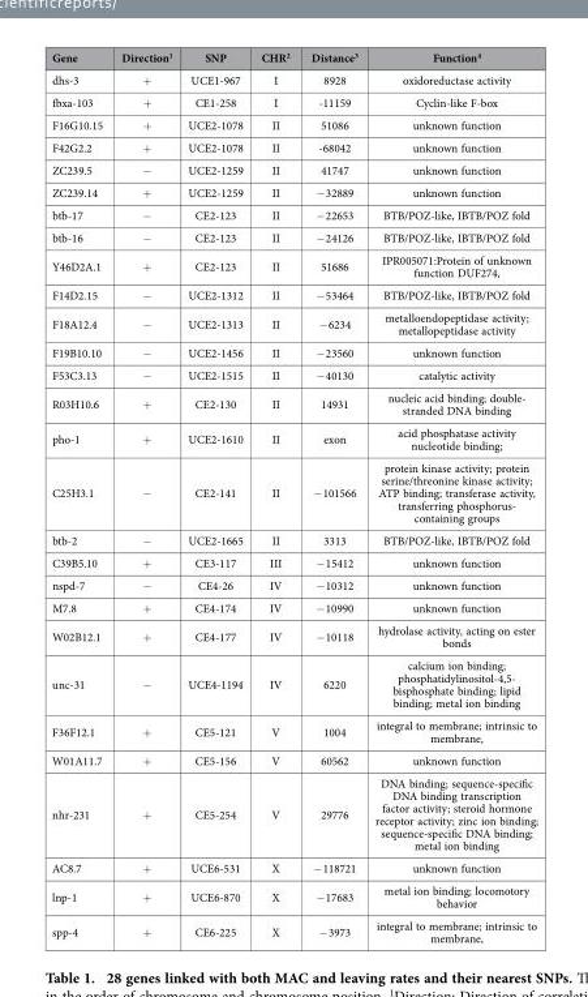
<table><thead><tr><td>Gene</td><td>Direction<sup>1</sup></td><td>SNP</td><td>CHR<sup>2</sup></td><td>Distance<sup>3</sup></td><td>Function<sup>4</sup></td></tr></thead><tbody><tr><td>dhs-3</td><td>+</td><td>UCE1-967</td><td>I</td><td>8928</td><td>oxidoreductase activity</td></tr><tr><td>fbxa-103</td><td>+</td><td>CE1-258</td><td>I</td><td>-11159</td><td>Cyclin-like F-box</td></tr><tr><td>F16G10.15</td><td>+</td><td>UCE2-1078</td><td>II</td><td>51086</td><td>unknown function</td></tr><tr><td>F42G2.2</td><td>+</td><td>UCE2-1078</td><td>II</td><td>-68042</td><td>unknown function</td></tr><tr><td>ZC239.5</td><td>−</td><td>UCE2-1259</td><td>II</td><td>41747</td><td>unknown function</td></tr><tr><td>ZC239.14</td><td>+</td><td>UCE2-1259</td><td>II</td><td>− 32889</td><td>unknown function</td></tr><tr><td>btb-17</td><td>−</td><td>CE2-123</td><td>II</td><td>− 22653</td><td>BTB/POZ-like, IBTB/POZ fold</td></tr><tr><td>btb-16</td><td>−</td><td>CE2-123</td><td>II</td><td>− 24126</td><td>BTB/POZ-like, IBTB/POZ fold</td></tr><tr><td>Y46D2A.1</td><td>+</td><td>CE2-123</td><td>II</td><td>51686</td><td>IPR005071:Protein of unknown function DUF274,</td></tr><tr><td>F14D2.15</td><td>−</td><td>UCE2-1312</td><td>II</td><td>− 53464</td><td>BTB/POZ-like, IBTB/POZ fold</td></tr><tr><td>F18A12.4</td><td>−</td><td>UCE2-1313</td><td>II</td><td>− 6234</td><td>metalloendopeptidase activity; metallopeptidase activity</td></tr><tr><td>F19B10.10</td><td>−</td><td>UCE2-1456</td><td>II</td><td>− 23560</td><td>unknown function</td></tr><tr><td>F53C3.13</td><td>−</td><td>UCE2-1515</td><td>II</td><td>− 40130</td><td>catalytic activity</td></tr><tr><td>R03H10.6</td><td>+</td><td>CE2-130</td><td>II</td><td>14931</td><td>nucleic acid binding; double- stranded DNA binding</td></tr><tr><td>pho-1</td><td>+</td><td>UCE2-1610</td><td>II</td><td>exon</td><td>acid phosphatase activity nucleotide binding;</td></tr><tr><td>C25H3.1</td><td>−</td><td>CE2-141</td><td>II</td><td>− 101566</td><td>protein kinase activity; protein serine/threonine kinase activity; ATP binding; transferase activity, transferring phosphorus- containing groups</td></tr><tr><td>btb-2</td><td>−</td><td>UCE2-1665</td><td>II</td><td>3313</td><td>BTB/POZ-like, IBTB/POZ fold</td></tr><tr><td>C39B5.10</td><td>+</td><td>CE3-117</td><td>III</td><td>− 15412</td><td>unknown function</td></tr><tr><td>nspd-7</td><td>−</td><td>CE4-26</td><td>IV</td><td>− 10312</td><td>unknown function</td></tr><tr><td>M7.8</td><td>+</td><td>CE4-174</td><td>IV</td><td>− 10990</td><td>unknown function</td></tr><tr><td>W02B12.1</td><td>+</td><td>CE4-177</td><td>IV</td><td>− 10118</td><td>hydrolase activity, acting on ester bonds</td></tr><tr><td>unc-31</td><td>−</td><td>UCE4-1194</td><td>IV</td><td>6220</td><td>calcium ion binding; phosphatidylinositol-4,5- bisphosphate binding; lipid binding; metal ion binding</td></tr><tr><td>F36F12.1</td><td>+</td><td>CE5-121</td><td>V</td><td>1004</td><td>integral to membrane; intrinsic to membrane,</td></tr><tr><td>W01A11.7</td><td>+</td><td>CE5-156</td><td>V</td><td>60562</td><td>unknown function</td></tr><tr><td>nhr-231</td><td>+</td><td>CE5-254</td><td>V</td><td>29776</td><td>DNA binding; sequence-specific DNA binding transcription factor activity; steroid hormone receptor activity; zinc ion binding; sequence-specific DNA binding; metal ion binding</td></tr><tr><td>AC8.7</td><td>+</td><td>UCE6-531</td><td>X</td><td>− 118721</td><td>unknown function</td></tr><tr><td>lnp-1</td><td>+</td><td>UCE6-870</td><td>X</td><td>− 17683</td><td>metal ion binding; locomotory behavior</td></tr><tr><td>spp-4</td><td>+</td><td>CE6-225</td><td>X</td><td>− 3973</td><td>integral to membrane; intrinsic to membrane,</td></tr></tbody></table>